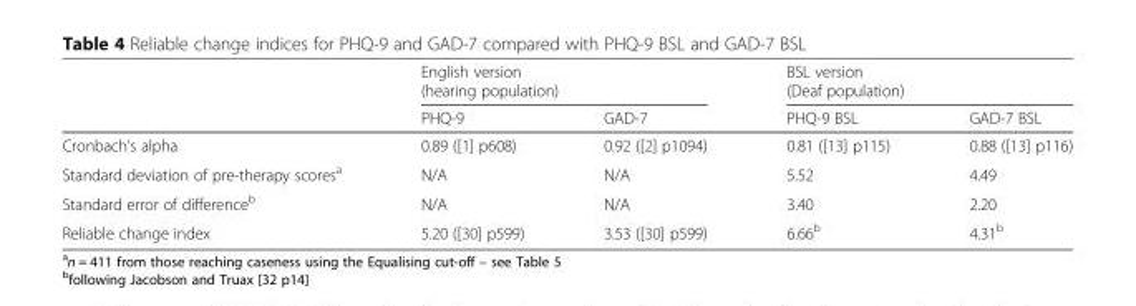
<table><thead><tr><td rowspan="2"></td><td colspan="2">English version (hearing population)</td><td colspan="2">BSL version (Deaf population)</td></tr><tr><td>PHQ-9</td><td>GAD-7</td><td>PHQ-9 BSL</td><td>GAD-7 BSL</td></tr></thead><tbody><tr><td>Cronbach’s alpha</td><td>0.89 ([1] p608)</td><td>0.92 ([2] p1094)</td><td>0.81 ([13] p115)</td><td>0.88 ([13] p116)</td></tr><tr><td>Standard deviation of pre-therapy scores<sup>a</sup></td><td>N/A</td><td>N/A</td><td>5.52</td><td>4.49</td></tr><tr><td>Standard error of difference<sup>b</sup></td><td>N/A</td><td>N/A</td><td>3.40</td><td>2.20</td></tr><tr><td>Reliable change index</td><td>5.20 ([30] p599)</td><td>3.53 ([30] p599)</td><td>6.66<sup>b</sup></td><td>4.31<sup>b</sup></td></tr></tbody></table>